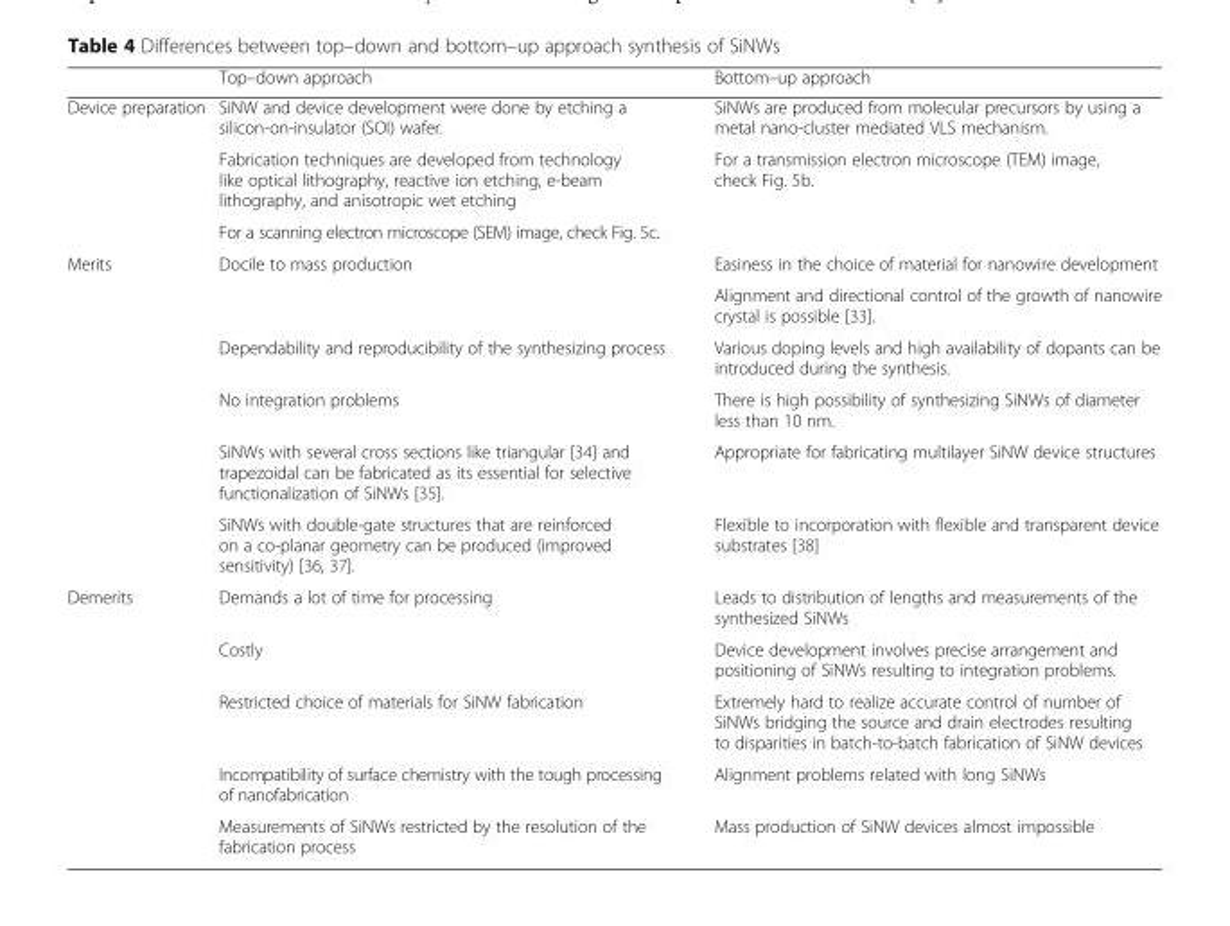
<table><thead><tr><td></td><td>Top–down approach</td><td>Bottom–up approach</td></tr></thead><tbody><tr><td rowspan="3">Device preparation</td><td>SiNW and device development were done by etching a silicon-on-insulator (SOI) wafer.</td><td>SiNWs are produced from molecular precursors by using a metal nano-cluster mediated VLS mechanism.</td></tr><tr><td>Fabrication techniques are developed from technology like optical lithography, reactive ion etching, e-beam lithography, and anisotropic wet etching</td><td>For a transmission electron microscope (TEM) image, check Fig. 5b.</td></tr><tr><td>For a scanning electron microscope (SEM) image, check Fig. 5c.</td><td></td></tr><tr><td rowspan="6">Merits</td><td rowspan="2">Docile to mass production</td><td>Easiness in the choice of material for nanowire development</td></tr><tr><td>Alignment and directional control of the growth of nanowire crystal is possible [33].</td></tr><tr><td>Dependability and reproducibility of the synthesizing process</td><td>Various doping levels and high availability of dopants can be introduced during the synthesis.</td></tr><tr><td>No integration problems</td><td>There is high possibility of synthesizing SiNWs of diameter less than 10 nm.</td></tr><tr><td>SiNWs with several cross sections like triangular [34] and trapezoidal can be fabricated as its essential for selective functionalization of SiNWs [35].</td><td>Appropriate for fabricating multilayer SiNW device structures</td></tr><tr><td>SiNWs with double-gate structures that are reinforced on a co-planar geometry can be produced (improved sensitivity) [36, 37].</td><td>Flexible to incorporation with flexible and transparent device substrates [38]</td></tr><tr><td rowspan="5">Demerits</td><td>Demands a lot of time for processing</td><td>Leads to distribution of lengths and measurements of the synthesized SiNWs</td></tr><tr><td>Costly</td><td>Device development involves precise arrangement and positioning of SiNWs resulting to integration problems.</td></tr><tr><td>Restricted choice of materials for SiNW fabrication</td><td>Extremely hard to realize accurate control of number of SiNWs bridging the source and drain electrodes resulting to disparities in batch-to-batch fabrication of SiNW devices</td></tr><tr><td>Incompatibility of surface chemistry with the tough processing of nanofabrication</td><td>Alignment problems related with long SiNWs</td></tr><tr><td>Measurements of SiNWs restricted by the resolution of the fabrication process</td><td>Mass production of SiNW devices almost impossible</td></tr></tbody></table>